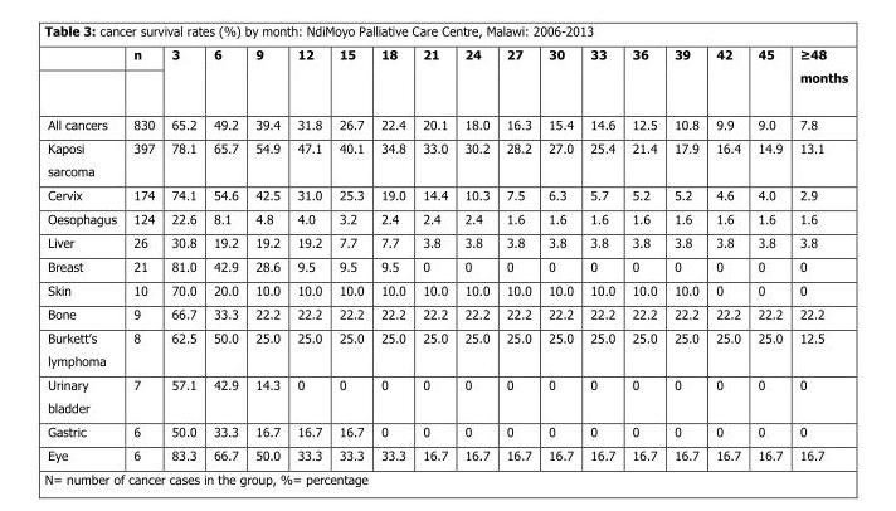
<table><thead><tr><td></td><td>n</td><td>3</td><td>6</td><td>9</td><td>12</td><td>15</td><td>18</td><td>21</td><td>24</td><td>27</td><td>30</td><td>33</td><td>36</td><td>39</td><td>42</td><td>45</td><td>≥48 months</td></tr></thead><tbody><tr><td>All cancers</td><td>830</td><td>65.2</td><td>49.2</td><td>39.4</td><td>31.8</td><td>26.7</td><td>22.4</td><td>20.1</td><td>18.0</td><td>16.3</td><td>15.4</td><td>14.6</td><td>12.5</td><td>10.8</td><td>9.9</td><td>9.0</td><td>7.8</td></tr><tr><td>Kaposi sarcoma</td><td>397</td><td>78.1</td><td>65.7</td><td>54.9</td><td>47.1</td><td>40.1</td><td>34.8</td><td>33.0</td><td>30.2</td><td>28.2</td><td>27.0</td><td>25.4</td><td>21.4</td><td>17.9</td><td>16.4</td><td>14.9</td><td>13.1</td></tr><tr><td>Cervix</td><td>174</td><td>74.1</td><td>54.6</td><td>42.5</td><td>31.0</td><td>25.3</td><td>19.0</td><td>14.4</td><td>10.3</td><td>7.5</td><td>6.3</td><td>5.7</td><td>5.2</td><td>5.2</td><td>4.6</td><td>4.0</td><td>2.9</td></tr><tr><td>Oesophagus</td><td>124</td><td>22.6</td><td>8.1</td><td>4.8</td><td>4.0</td><td>3.2</td><td>2.4</td><td>2.4</td><td>2.4</td><td>1.6</td><td>1.6</td><td>1.6</td><td>1.6</td><td>1.6</td><td>1.6</td><td>1.6</td><td>1.6</td></tr><tr><td>Liver</td><td>26</td><td>30.8</td><td>19.2</td><td>19.2</td><td>19.2</td><td>7.7</td><td>7.7</td><td>3.8</td><td>3.8</td><td>3.8</td><td>3.8</td><td>3.8</td><td>3.8</td><td>3.8</td><td>3.8</td><td>3.8</td><td>3.8</td></tr><tr><td>Breast</td><td>21</td><td>81.0</td><td>42.9</td><td>28.6</td><td>9.5</td><td>9.5</td><td>9.5</td><td>0</td><td>0</td><td>0</td><td>0</td><td>0</td><td>0</td><td>0</td><td>0</td><td>0</td><td>0</td></tr><tr><td>Skin</td><td>10</td><td>70.0</td><td>20.0</td><td>10.0</td><td>10.0</td><td>10.0</td><td>10.0</td><td>10.0</td><td>10.0</td><td>10.0</td><td>10.0</td><td>10.0</td><td>10.0</td><td>10.0</td><td>0</td><td>0</td><td>0</td></tr><tr><td>Bone</td><td>9</td><td>66.7</td><td>33.3</td><td>22.2</td><td>22.2</td><td>22.2</td><td>22.2</td><td>22.2</td><td>22.2</td><td>22.2</td><td>22.2</td><td>22.2</td><td>22.2</td><td>22.2</td><td>22.2</td><td>22.2</td><td>22.2</td></tr><tr><td>Burkett’s lymphoma</td><td>8</td><td>62.5</td><td>50.0</td><td>25.0</td><td>25.0</td><td>25.0</td><td>25.0</td><td>25.0</td><td>25.0</td><td>25.0</td><td>25.0</td><td>25.0</td><td>25.0</td><td>25.0</td><td>25.0</td><td>25.0</td><td>12.5</td></tr><tr><td>Urinary bladder</td><td>7</td><td>57.1</td><td>42.9</td><td>14.3</td><td>0</td><td>0</td><td>0</td><td>0</td><td>0</td><td>0</td><td>0</td><td>0</td><td>0</td><td>0</td><td>0</td><td>0</td><td>0</td></tr><tr><td>Gastric</td><td>6</td><td>50.0</td><td>33.3</td><td>16.7</td><td>16.7</td><td>16.7</td><td>0</td><td>0</td><td>0</td><td>0</td><td>0</td><td>0</td><td>0</td><td>0</td><td>0</td><td>0</td><td>0</td></tr><tr><td>Eye</td><td>6</td><td>83.3</td><td>66.7</td><td>50.0</td><td>33.3</td><td>33.3</td><td>33.3</td><td>16.7</td><td>16.7</td><td>16.7</td><td>16.7</td><td>16.7</td><td>16.7</td><td>16.7</td><td>16.7</td><td>16.7</td><td>16.7</td></tr></tbody></table>